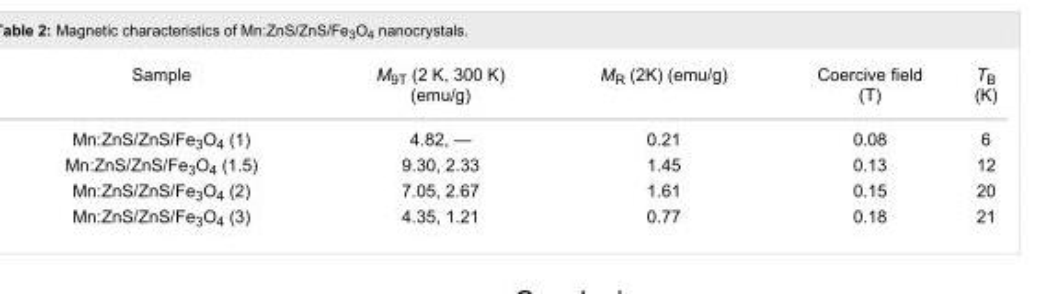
<table><tbody><tr><td>Sample</td><td>M<sub>9T</sub> (2 K, 300 K) (emu/g)</td><td>M<sub>R</sub> (2K) (emu/g)</td><td>Coercive field (T)</td><td>T<sub>B</sub> (K)</td></tr><tr><td>Mn:ZnS/ZnS/Fe<sub>3</sub>O<sub>4</sub> (1)</td><td>4.82, —</td><td>0.21</td><td>0.08</td><td>6</td></tr><tr><td>Mn:ZnS/ZnS/Fe<sub>3</sub>O<sub>4</sub> (1.5)</td><td>9.30, 2.33</td><td>1.45</td><td>0.13</td><td>12</td></tr><tr><td>Mn:ZnS/ZnS/Fe<sub>3</sub>O<sub>4</sub> (2)</td><td>7.05, 2.67</td><td>1.61</td><td>0.15</td><td>20</td></tr><tr><td>Mn:ZnS/ZnS/Fe<sub>3</sub>O<sub>4</sub> (3)</td><td>4.35, 1.21</td><td>0.77</td><td>0.18</td><td>21</td></tr></tbody></table>